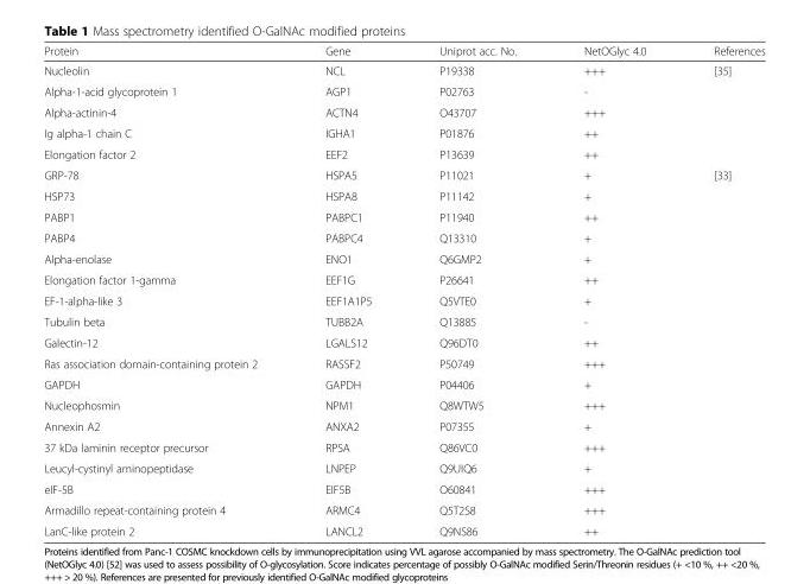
<table><thead><tr><td>Protein</td><td>Gene</td><td>Uniprot acc. No.</td><td>NetOGlyc 4.0</td><td>References</td></tr></thead><tbody><tr><td>Nucleolin</td><td>NCL</td><td>P19338</td><td>+++</td><td>[35]</td></tr><tr><td>Alpha-1-acid glycoprotein 1</td><td>AGP1</td><td>P02763</td><td>-</td><td></td></tr><tr><td>Alpha-actinin-4</td><td>ACTN4</td><td>O43707</td><td>+++</td><td></td></tr><tr><td>Ig alpha-1 chain C</td><td>IGHA1</td><td>P01876</td><td>++</td><td></td></tr><tr><td>Elongation factor 2</td><td>EEF2</td><td>P13639</td><td>++</td><td></td></tr><tr><td>GRP-78</td><td>HSPA5</td><td>P11021</td><td>+</td><td>[33]</td></tr><tr><td>HSP73</td><td>HSPA8</td><td>P11142</td><td>+</td><td></td></tr><tr><td>PABP1</td><td>PABPC1</td><td>P11940</td><td>++</td><td></td></tr><tr><td>PABP4</td><td>PABPC4</td><td>Q13310</td><td>+</td><td></td></tr><tr><td>Alpha-enolase</td><td>ENO1</td><td>Q6GMP2</td><td>+</td><td></td></tr><tr><td>Elongation factor 1-gamma</td><td>EEF1G</td><td>P26641</td><td>++</td><td></td></tr><tr><td>EF-1-alpha-like 3</td><td>EEF1A1P5</td><td>Q5VTE0</td><td>+</td><td></td></tr><tr><td>Tubulin beta</td><td>TUBB2A</td><td>Q13885</td><td>-</td><td></td></tr><tr><td>Galectin-12</td><td>LGALS12</td><td>Q96DT0</td><td>++</td><td></td></tr><tr><td>Ras association domain-containing protein 2</td><td>RASSF2</td><td>P50749</td><td>+++</td><td></td></tr><tr><td>GAPDH</td><td>GAPDH</td><td>P04406</td><td>+</td><td></td></tr><tr><td>Nucleophosmin</td><td>NPM1</td><td>Q8WTW5</td><td>+++</td><td></td></tr><tr><td>Annexin A2</td><td>ANXA2</td><td>P07355</td><td>+</td><td></td></tr><tr><td>37 kDa laminin receptor precursor</td><td>RPSA</td><td>Q86VC0</td><td>+++</td><td></td></tr><tr><td>Leucyl-cystinyl aminopeptidase</td><td>LNPEP</td><td>Q9UIQ6</td><td>+</td><td></td></tr><tr><td>eIF-5B</td><td>EIF5B</td><td>O60841</td><td>+++</td><td></td></tr><tr><td>Armadillo repeat-containing protein 4</td><td>ARMC4</td><td>Q5T2S8</td><td>+++</td><td></td></tr><tr><td>LanC-like protein 2</td><td>LANCL2</td><td>Q9NS86</td><td>++</td><td></td></tr></tbody></table>